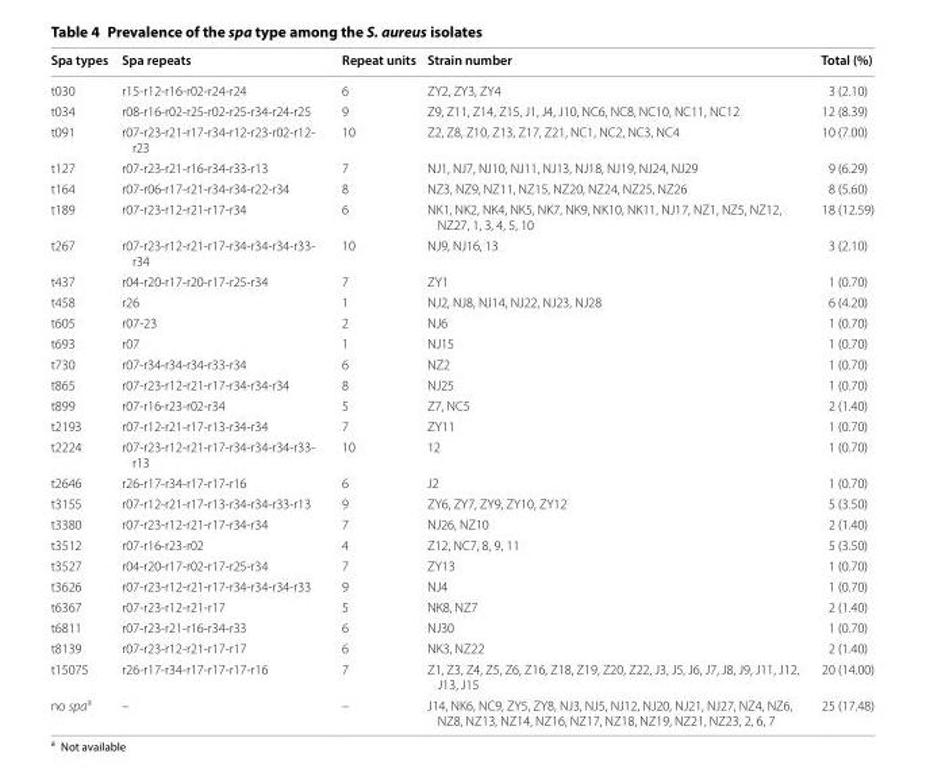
<table><thead><tr><td>Spa types</td><td>Spa repeats</td><td>Repeat units</td><td>Strain number</td><td>Total (%)</td></tr></thead><tbody><tr><td>t030</td><td>r15-r12-r16-r02-r24-r24</td><td>6</td><td>ZY2, ZY3, ZY4</td><td>3 (2.10)</td></tr><tr><td>t034</td><td>r08-r16-r02-r25-r02-r25-r34-r24-r25</td><td>9</td><td>Z9, Z11, Z14, Z15, J1, J4, J10, NC6, NC8, NC10, NC11, NC12</td><td>12 (8.39)</td></tr><tr><td>t091</td><td>r07-r23-r21-r17-r34-r12-r23-r02-r12- r23</td><td>10</td><td>Z2, Z8, Z10, Z13, Z17, Z21, NC1, NC2, NC3, NC4</td><td>10 (7.00)</td></tr><tr><td>t127</td><td>r07-r23-r21-r16-r34-r33-r13</td><td>7</td><td>NJ1, NJ7, NJ10, NJ11, NJ13, NJ18, NJ19, NJ24, NJ29</td><td>9 (6.29)</td></tr><tr><td>t164</td><td>r07-r06-r17-r21-r34-r34-r22-r34</td><td>8</td><td>NZ3, NZ9, NZ11, NZ15, NZ20, NZ24, NZ25, NZ26</td><td>8 (5.60)</td></tr><tr><td>t189</td><td>r07-r23-r12-r21-r17-r34</td><td>6</td><td>NK1, NK2, NK4, NK5, NK7, NK9, NK10, NK11, NJ17, NZ1, NZ5, NZ12, NZ27, 1, 3, 4, 5, 10</td><td>18 (12.59)</td></tr><tr><td>t267</td><td>r07-r23-r12-r21-r17-r34-r34-r34-r33- r34</td><td>10</td><td>NJ9, NJ16, 13</td><td>3 (2.10)</td></tr><tr><td>t437</td><td>r04-r20-r17-r20-r17-r25-r34</td><td>7</td><td>ZY1</td><td>1 (0.70)</td></tr><tr><td>t458</td><td>r26</td><td>1</td><td>NJ2, NJ8, NJ14, NJ22, NJ23, NJ28</td><td>6 (4.20)</td></tr><tr><td>t605</td><td>r07-23</td><td>2</td><td>NJ6</td><td>1 (0.70)</td></tr><tr><td>t693</td><td>r07</td><td>1</td><td>NJ15</td><td>1 (0.70)</td></tr><tr><td>t730</td><td>r07-r34-r34-r34-r33-r34</td><td>6</td><td>NZ2</td><td>1 (0.70)</td></tr><tr><td>t865</td><td>r07-r23-r12-r21-r17-r34-r34-r34</td><td>8</td><td>NJ25</td><td>1 (0.70)</td></tr><tr><td>t899</td><td>r07-r16-r23-r02-r34</td><td>5</td><td>Z7, NC5</td><td>2 (1.40)</td></tr><tr><td>t2193</td><td>r07-r12-r21-r17-r13-r34-r34</td><td>7</td><td>ZY11</td><td>1 (0.70)</td></tr><tr><td>t2224</td><td>r07-r23-r12-r21-r17-r34-r34-r34-r33- r13</td><td>10</td><td>12</td><td>1 (0.70)</td></tr><tr><td>t2646</td><td>r26-r17-r34-r17-r17-r16</td><td>6</td><td>J2</td><td>1 (0.70)</td></tr><tr><td>t3155</td><td>r07-r12-r21-r17-r13-r34-r34-r33-r13</td><td>9</td><td>ZY6, ZY7, ZY9, ZY10, ZY12</td><td>5 (3.50)</td></tr><tr><td>t3380</td><td>r07-r23-r12-r21-r17-r34-r34</td><td>7</td><td>NJ26, NZ10</td><td>2 (1.40)</td></tr><tr><td>t3512</td><td>r07-r16-r23-r02</td><td>4</td><td>Z12, NC7, 8, 9, 11</td><td>5 (3.50)</td></tr><tr><td>t3527</td><td>r04-r20-r17-r02-r17-r25-r34</td><td>7</td><td>ZY13</td><td>1 (0.70)</td></tr><tr><td>t3626</td><td>r07-r23-r12-r21-r17-r34-r34-r34-r33</td><td>9</td><td>NJ4</td><td>1 (0.70)</td></tr><tr><td>t6367</td><td>r07-r23-r12-r21-r17</td><td>5</td><td>NK8, NZ7</td><td>2 (1.40)</td></tr><tr><td>t6811</td><td>r07-r23-r21-r16-r34-r33</td><td>6</td><td>NJ30</td><td>1 (0.70)</td></tr><tr><td>t8139</td><td>r07-r23-r12-r21-r17-r17</td><td>6</td><td>NK3, NZ22</td><td>2 (1.40)</td></tr><tr><td>t15075</td><td>r26-r17-r34-r17-r17-r17-r16</td><td>7</td><td>Z1, Z3, Z4, Z5, Z6, Z16, Z18, Z19, Z20, Z22, J3, J5, J6, J7, J8, J9, J11, J12, J13, J15</td><td>20 (14.00)</td></tr><tr><td>no spa<sup>a</sup></td><td>–</td><td>–</td><td>J14, NK6, NC9, ZY5, ZY8, NJ3, NJ5, NJ12, NJ20, NJ21, NJ27, NZ4, NZ6, NZ8, NZ13, NZ14, NZ16, NZ17, NZ18, NZ19, NZ21, NZ23, 2, 6, 7</td><td>25 (17.48)</td></tr></tbody></table>